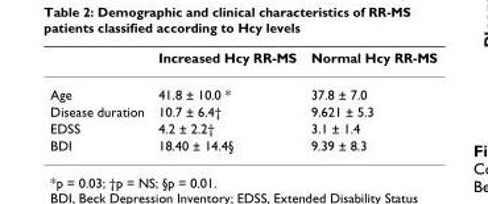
<table><thead><tr><td></td><td>Increased Hcy RR-MS</td><td>Normal Hcy RR-MS</td></tr></thead><tbody><tr><td>Age</td><td>41.8 ± 10.0 *</td><td>37.8 ± 7.0</td></tr><tr><td>Disease duration</td><td>10.7 ± 6.4†</td><td>9.621 ± 5.3</td></tr><tr><td>EDSS</td><td>4.2 ± 2.2†</td><td>3.1 ± 1.4</td></tr><tr><td>BDI</td><td>18.40 ± 14.4§</td><td>9.39 ± 8.3</td></tr></tbody></table>